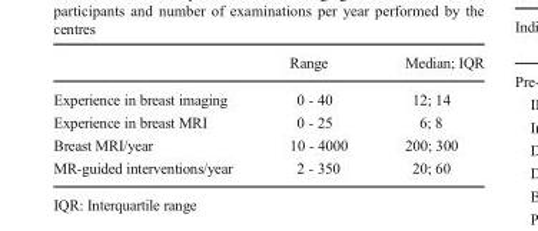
<table><thead><tr><td></td><td>Range</td><td>Median; IQR</td></tr></thead><tbody><tr><td>Experience in breast imaging</td><td>0 - 40</td><td>12; 14</td></tr><tr><td>Experience in breast MRI</td><td>0 - 25</td><td>6; 8</td></tr><tr><td>Breast MRI/year</td><td>10 - 4000</td><td>200; 300</td></tr><tr><td>MR-guided interventions/year</td><td>2 - 350</td><td>20; 60</td></tr></tbody></table>